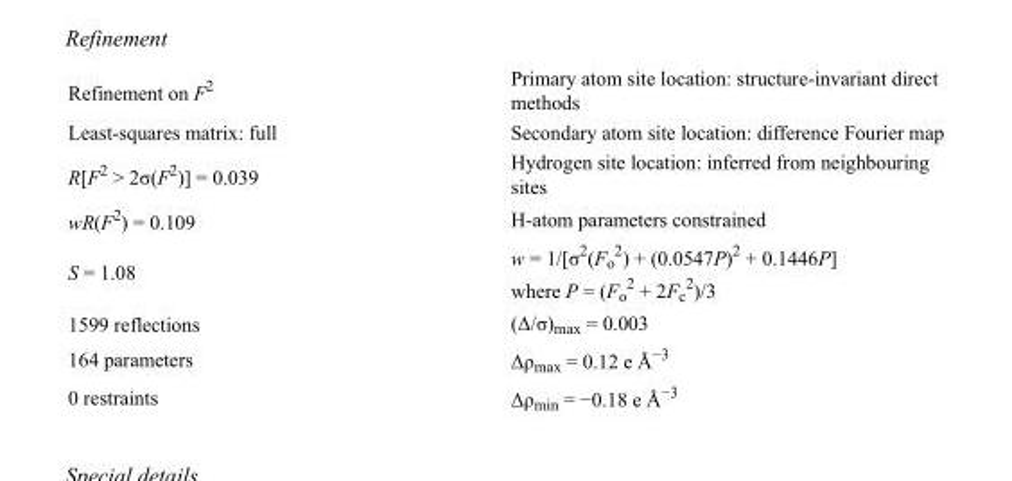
<table><tbody><tr><td>Refinement on F<sup>2</sup></td><td>Primary atom site location: structure-invariant direct methods</td></tr><tr><td>Least-squares matrix: full</td><td>Secondary atom site location: difference Fourier map</td></tr><tr><td>R[F<sup>2</sup> &gt; 2σ(F<sup>2</sup>)] = 0.039</td><td>Hydrogen site location: inferred from neighbouring sites</td></tr><tr><td>wR(F<sup>2</sup>) = 0.109</td><td>H-atom parameters constrained</td></tr><tr><td>S = 1.08</td><td>w = 1/[σ<sup>2</sup>(F<sub>o</sub> <sup>2</sup>) + (0.0547P)<sup>2</sup> + 0.1446P] where P = (F<sub>o</sub> <sup>2</sup> + 2F<sub>c</sub> <sup>2</sup>)/3</td></tr><tr><td>1599 reflections</td><td>(Δ/σ)<sub>max</sub> = 0.003</td></tr><tr><td>164 parameters</td><td>Δρ<sub>max</sub> = 0.12 e Å<sup>−3</sup></td></tr><tr><td>0 restraints</td><td>Δρ<sub>min</sub> = −0.18 e Å<sup>−3</sup></td></tr></tbody></table>